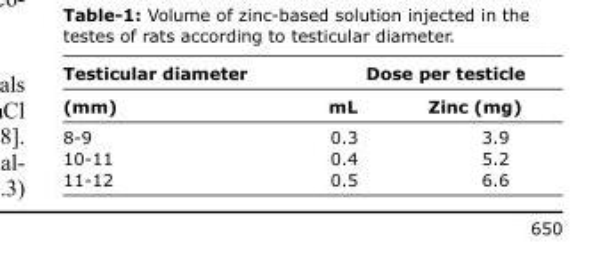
<table><thead><tr><td rowspan="2">Testicular diameter (mm)</td><td colspan="2">Dose per testicle</td></tr><tr><td>mL</td><td>Zinc (mg)</td></tr></thead><tbody><tr><td>8-9</td><td>0.3</td><td>3.9</td></tr><tr><td>10-11</td><td>0.4</td><td>5.2</td></tr><tr><td>11-12</td><td>0.5</td><td>6.6</td></tr></tbody></table>